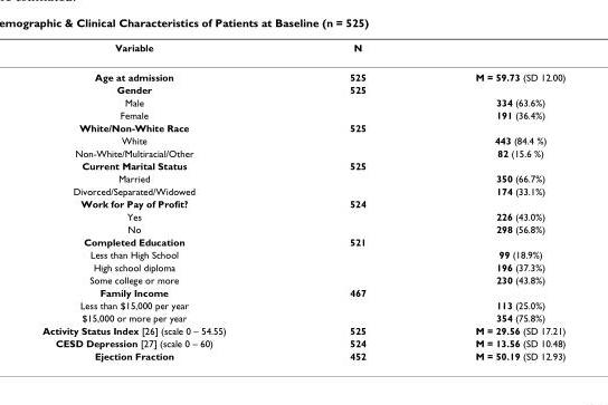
<table><thead><tr><td>Variable</td><td>N</td><td></td></tr></thead><tbody><tr><td>Age at admission</td><td>525</td><td>M = 59.73 (SD 12.00)</td></tr><tr><td>Gender</td><td>525</td><td></td></tr><tr><td>Male</td><td></td><td>334 (63.6%)</td></tr><tr><td>Female</td><td></td><td>191 (36.4%)</td></tr><tr><td>White/Non-White Race</td><td>525</td><td></td></tr><tr><td>White</td><td></td><td>443 (84.4 %)</td></tr><tr><td>Non-White/Multiracial/Other</td><td></td><td>82 (15.6 %)</td></tr><tr><td>Current Marital Status</td><td>525</td><td></td></tr><tr><td>Married</td><td></td><td>350 (66.7%)</td></tr><tr><td>Divorced/Separated/Widowed</td><td></td><td>174 (33.1%)</td></tr><tr><td>Work for Pay of Profit?</td><td>524</td><td></td></tr><tr><td>Yes</td><td></td><td>226 (43.0%)</td></tr><tr><td>No</td><td></td><td>298 (56.8%)</td></tr><tr><td>Completed Education</td><td>521</td><td></td></tr><tr><td>Less than High School</td><td></td><td>99 (18.9%)</td></tr><tr><td>High school diploma</td><td></td><td>196 (37.3%)</td></tr><tr><td>Some college or more</td><td></td><td>230 (43.8%)</td></tr><tr><td>Family Income</td><td>467</td><td></td></tr><tr><td>Less than $15,000 per year</td><td></td><td>113 (25.0%)</td></tr><tr><td>$15,000 or more per year</td><td></td><td>354 (75.8%)</td></tr><tr><td>Activity Status Index [26] (scale 0 – 54.55)</td><td>525</td><td>M = 29.56 (SD 17.21)</td></tr><tr><td>CESD Depression [27] (scale 0 – 60)</td><td>524</td><td>M = 13.56 (SD 10.48)</td></tr><tr><td>Ejection Fraction</td><td>452</td><td>M = 50.19 (SD 12.93)</td></tr></tbody></table>